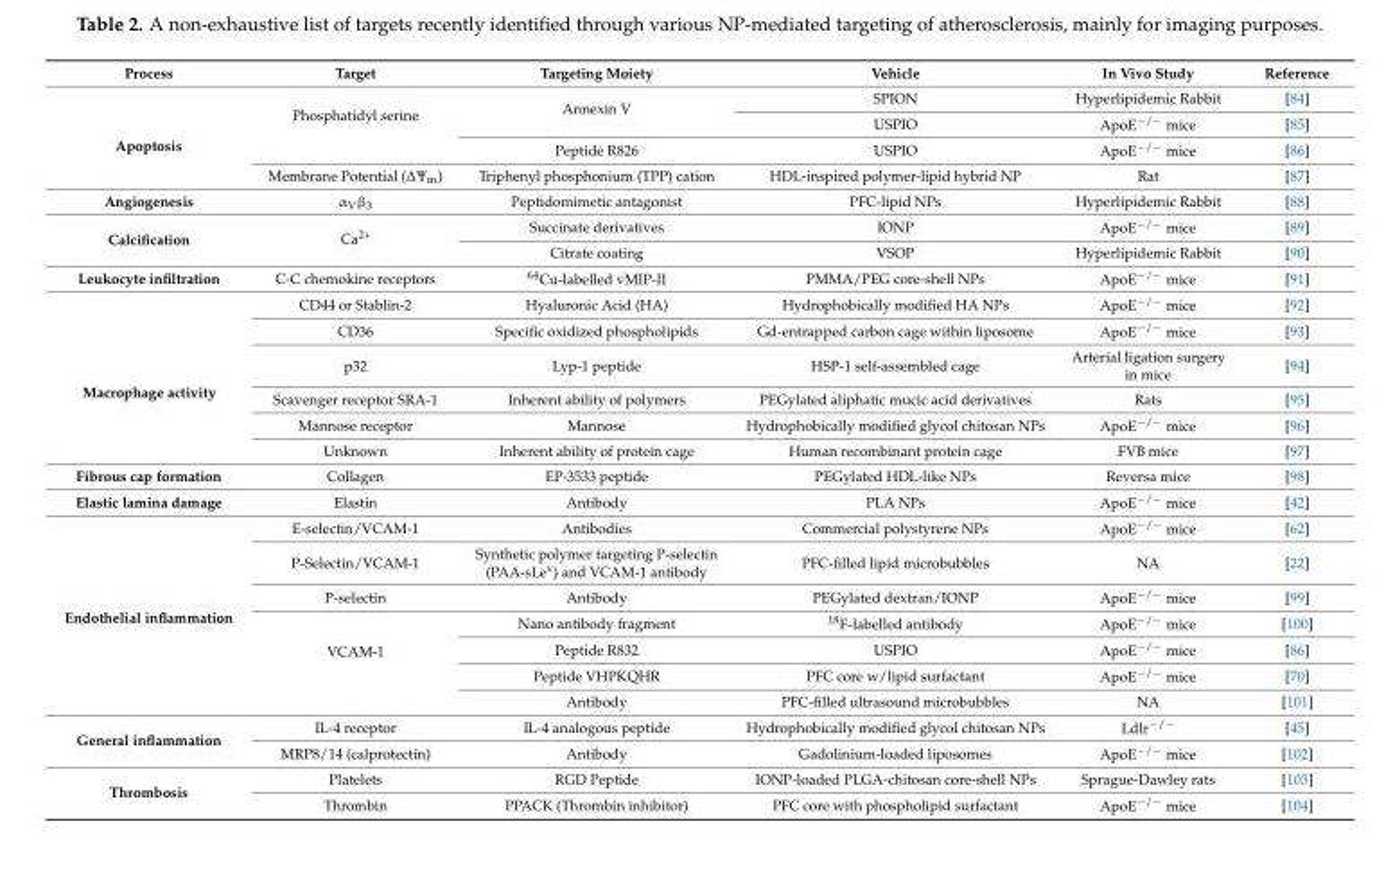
<table><thead><tr><td>Process</td><td>Target</td><td>Targeting Moiety</td><td>Vehicle</td><td>In Vivo Study</td><td>Reference</td></tr></thead><tbody><tr><td rowspan="4">Apoptosis</td><td rowspan="3">Phosphatidyl serine</td><td rowspan="2">Annexin V</td><td>SPION</td><td>Hyperlipidemic Rabbit</td><td>[84]</td></tr><tr><td>USPIO</td><td>ApoE<sup>−/−</sup> mice</td><td>[85]</td></tr><tr><td>Peptide R826</td><td>USPIO</td><td>ApoE<sup>−/−</sup> mice</td><td>[86]</td></tr><tr><td>Membrane Potential (∆Ψm)</td><td>Triphenyl phosphonium (TPP) cation</td><td>HDL-inspired polymer-lipid hybrid NP</td><td>Rat</td><td>[87]</td></tr><tr><td>Angiogenesis</td><td>α<sub>V</sub>β<sub>3</sub></td><td>Peptidomimetic antagonist</td><td>PFC-lipid NPs</td><td>Hyperlipidemic Rabbit</td><td>[88]</td></tr><tr><td rowspan="2">Calcification</td><td rowspan="2">Ca<sup>2+</sup></td><td>Succinate derivatives</td><td>IONP</td><td>ApoE<sup>−/−</sup> mice</td><td>[89]</td></tr><tr><td>Citrate coating</td><td>VSOP</td><td>Hyperlipidemic Rabbit</td><td>[90]</td></tr><tr><td>Leukocyte infiltration</td><td>C-C chemokine receptors</td><td><sup>64</sup>Cu-labelled vMIP-II</td><td>PMMA/PEG core-shell NPs</td><td>ApoE<sup>−/−</sup> mice</td><td>[91]</td></tr><tr><td rowspan="6">Macrophage activity</td><td>CD44 or Stablin-2</td><td>Hyaluronic Acid (HA)</td><td>Hydrophobically modified HA NPs</td><td>ApoE<sup>−/−</sup> mice</td><td>[92]</td></tr><tr><td>CD36</td><td>Specific oxidized phospholipids</td><td>Gd-entrapped carbon cage within liposome</td><td>ApoE<sup>−/−</sup> mice</td><td>[93]</td></tr><tr><td>p32</td><td>Lyp-1 peptide</td><td>HSP-1 self-assembled cage</td><td>Arterial ligation surgery in mice</td><td>[94]</td></tr><tr><td>Scavenger receptor SRA-1</td><td>Inherent ability of polymers</td><td>PEGylated aliphatic mucic acid derivatives</td><td>Rats</td><td>[95]</td></tr><tr><td>Mannose receptor</td><td>Mannose</td><td>Hydrophobically modified glycol chitosan NPs</td><td>ApoE<sup>−/−</sup> mice</td><td>[96]</td></tr><tr><td>Unknown</td><td>Inherent ability of protein cage</td><td>Human recombinant protein cage</td><td>FVB mice</td><td>[97]</td></tr><tr><td>Fibrous cap formation</td><td>Collagen</td><td>EP-3533 peptide</td><td>PEGylated HDL-like NPs</td><td>Reversa mice</td><td>[98]</td></tr><tr><td>Elastic lamina damage</td><td>Elastin</td><td>Antibody</td><td>PLA NPs</td><td>ApoE<sup>−/−</sup> mice</td><td>[42]</td></tr><tr><td rowspan="7">Endothelial inflammation</td><td>E-selectin/VCAM-1</td><td>Antibodies</td><td>Commercial polystyrene NPs</td><td>ApoE<sup>−/−</sup> mice</td><td>[62]</td></tr><tr><td>P-Selectin/VCAM-1</td><td>Synthetic polymer targeting P-selectin (PAA-sLe<sup>x</sup>) and VCAM-1 antibody</td><td>PFC-filled lipid microbubbles</td><td>NA</td><td>[22]</td></tr><tr><td>P-selectin</td><td>Antibody</td><td>PEGylated dextran/IONP</td><td>ApoE<sup>−/−</sup> mice</td><td>[99]</td></tr><tr><td rowspan="4">VCAM-1</td><td>Nano antibody fragment</td><td><sup>18</sup>F-labelled antibody</td><td>ApoE<sup>−/−</sup> mice</td><td>[100]</td></tr><tr><td>Peptide R832</td><td>USPIO</td><td>ApoE<sup>−/−</sup> mice</td><td>[86]</td></tr><tr><td>Peptide VHPKQHR</td><td>PFC core w/lipid surfactant</td><td>ApoE<sup>−/−</sup> mice</td><td>[70]</td></tr><tr><td>Antibody</td><td>PFC-filled ultrasound microbubbles</td><td>NA</td><td>[101]</td></tr><tr><td rowspan="2">General inflammation</td><td>IL-4 receptor</td><td>IL-4 analogous peptide</td><td>Hydrophobically modified glycol chitosan NPs</td><td>Ldlr<sup>−/−</sup></td><td>[45]</td></tr><tr><td>MRP8/14 (calprotectin)</td><td>Antibody</td><td>Gadolinium-loaded liposomes</td><td>ApoE<sup>−/−</sup> mice</td><td>[102]</td></tr><tr><td rowspan="2">Thrombosis</td><td>Platelets</td><td>RGD Peptide</td><td>IONP-loaded PLGA-chitosan core-shell NPs</td><td>Sprague-Dawley rats</td><td>[103]</td></tr><tr><td>Thrombin</td><td>PPACK (Thrombin inhibitor)</td><td>PFC core with phospholipid surfactant</td><td>ApoE<sup>−/−</sup> mice</td><td>[104]</td></tr></tbody></table>